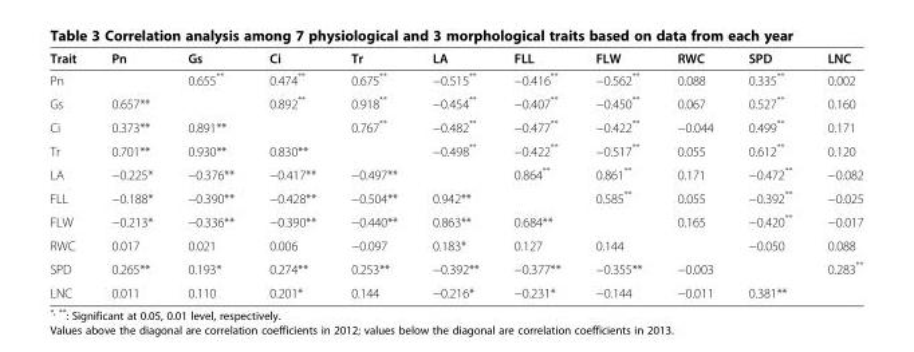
<table><thead><tr><td>Trait</td><td>Pn</td><td>Gs</td><td>Ci</td><td>Tr</td><td>LA</td><td>FLL</td><td>FLW</td><td>RWC</td><td>SPD</td><td>LNC</td></tr></thead><tbody><tr><td>Pn</td><td></td><td>0.655**</td><td>0.474**</td><td>0.675**</td><td>−0.515**</td><td>−0.416**</td><td>−0.562**</td><td>0.088</td><td>0.335**</td><td>0.002</td></tr><tr><td>Gs</td><td>0.657**</td><td></td><td>0.892**</td><td>0.918**</td><td>−0.454**</td><td>−0.407**</td><td>−0.450**</td><td>0.067</td><td>0.527**</td><td>0.160</td></tr><tr><td>Ci</td><td>0.373**</td><td>0.891**</td><td></td><td>0.767**</td><td>−0.482**</td><td>−0.477**</td><td>−0.422**</td><td>−0.044</td><td>0.499**</td><td>0.171</td></tr><tr><td>Tr</td><td>0.701**</td><td>0.930**</td><td>0.830**</td><td></td><td>−0.498**</td><td>−0.422**</td><td>−0.517**</td><td>0.055</td><td>0.612**</td><td>0.120</td></tr><tr><td>LA</td><td>−0.225*</td><td>−0.376**</td><td>−0.417**</td><td>−0.497**</td><td></td><td>0.864**</td><td>0.861**</td><td>0.171</td><td>−0.472**</td><td>−0.082</td></tr><tr><td>FLL</td><td>−0.188*</td><td>−0.390**</td><td>−0.428**</td><td>−0.504**</td><td>0.942**</td><td></td><td>0.585**</td><td>0.055</td><td>−0.392**</td><td>−0.025</td></tr><tr><td>FLW</td><td>−0.213*</td><td>−0.336**</td><td>−0.390**</td><td>−0.440**</td><td>0.863**</td><td>0.684**</td><td></td><td>0.165</td><td>−0.420**</td><td>−0.017</td></tr><tr><td>RWC</td><td>0.017</td><td>0.021</td><td>0.006</td><td>−0.097</td><td>0.183*</td><td>0.127</td><td>0.144</td><td></td><td>−0.050</td><td>0.088</td></tr><tr><td>SPD</td><td>0.265**</td><td>0.193*</td><td>0.274**</td><td>0.253**</td><td>−0.392**</td><td>−0.377**</td><td>−0.355**</td><td>−0.003</td><td></td><td>0.283**</td></tr><tr><td>LNC</td><td>0.011</td><td>0.110</td><td>0.201*</td><td>0.144</td><td>−0.216*</td><td>−0.231*</td><td>−0.144</td><td>−0.011</td><td>0.381**</td><td></td></tr></tbody></table>